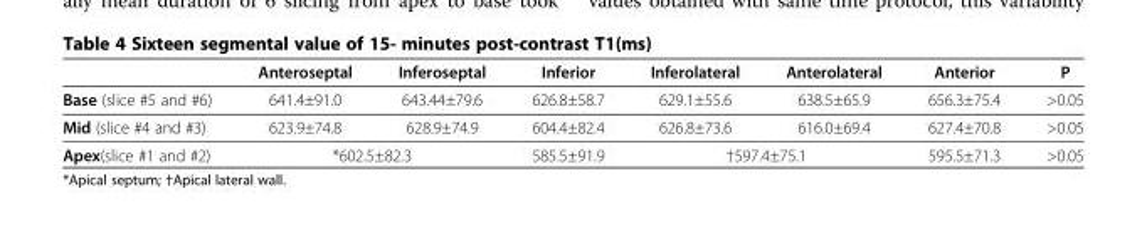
<table><thead><tr><td></td><td>Anteroseptal</td><td>Inferoseptal</td><td>Inferior</td><td>Inferolateral</td><td>Anterolateral</td><td>Anterior</td><td>P</td></tr></thead><tbody><tr><td>Base (slice #5 and #6)</td><td>641.4±91.0</td><td>643.44±79.6</td><td>626.8±58.7</td><td>629.1±55.6</td><td>638.5±65.9</td><td>656.3±75.4</td><td>&gt;0.05</td></tr><tr><td>Mid (slice #4 and #3)</td><td>623.9±74.8</td><td>628.9±74.9</td><td>604.4±82.4</td><td>626.8±73.6</td><td>616.0±69.4</td><td>627.4±70.8</td><td>&gt;0.05</td></tr><tr><td>Apex(slice #1 and #2)</td><td colspan="2">*602.5±82.3</td><td>585.5±91.9</td><td colspan="2">†597.4±75.1</td><td>595.5±71.3</td><td>&gt;0.05</td></tr></tbody></table>